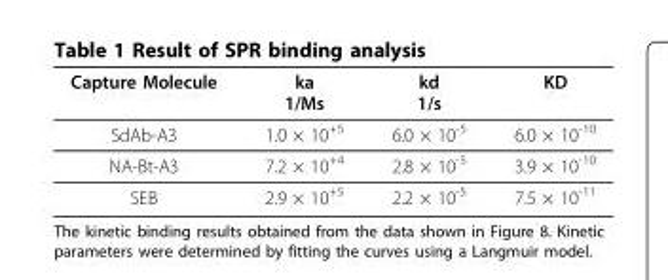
<table><thead><tr><td>Capture Molecule</td><td>ka 1/Ms</td><td>kd 1/s</td><td>KD</td></tr></thead><tbody><tr><td>SdAb-A3</td><td>1.0 × 10<sup>+5</sup></td><td>6.0 × 10<sup>-5</sup></td><td>6.0 × 10<sup>-10</sup></td></tr><tr><td>NA-Bt-A3</td><td>7.2 × 10<sup>+4</sup></td><td>2.8 × 10<sup>-5</sup></td><td>3.9 × 10<sup>-10</sup></td></tr><tr><td>SEB</td><td>2.9 × 10<sup>+5</sup></td><td>2.2 × 10<sup>-5</sup></td><td>7.5 × 10<sup>-11</sup></td></tr></tbody></table>